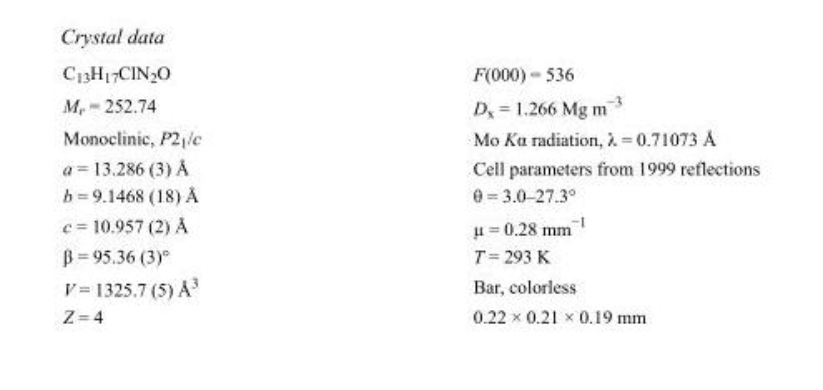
<table><tbody><tr><td>C<sub>13</sub>H<sub>17</sub>ClN<sub>2</sub>O</td><td>F(000) = 536</td></tr><tr><td>M<sub>r</sub> = 252.74</td><td>D<sub>x</sub> = 1.266 Mg m<sup>−3</sup></td></tr><tr><td>Monoclinic, P2<sub>1</sub>/c</td><td>Mo Kα radiation, λ = 0.71073 Å</td></tr><tr><td>a = 13.286 (3) Å</td><td>Cell parameters from 1999 reflections</td></tr><tr><td>b = 9.1468 (18) Å</td><td>θ = 3.0–27.3°</td></tr><tr><td>c = 10.957 (2) Å</td><td>µ = 0.28 mm<sup>−1</sup></td></tr><tr><td>β = 95.36 (3)°</td><td>T = 293 K</td></tr><tr><td>V = 1325.7 (5) Å<sup>3</sup></td><td>Bar, colorless</td></tr><tr><td>Z = 4</td><td>0.22 × 0.21 × 0.19 mm</td></tr></tbody></table>